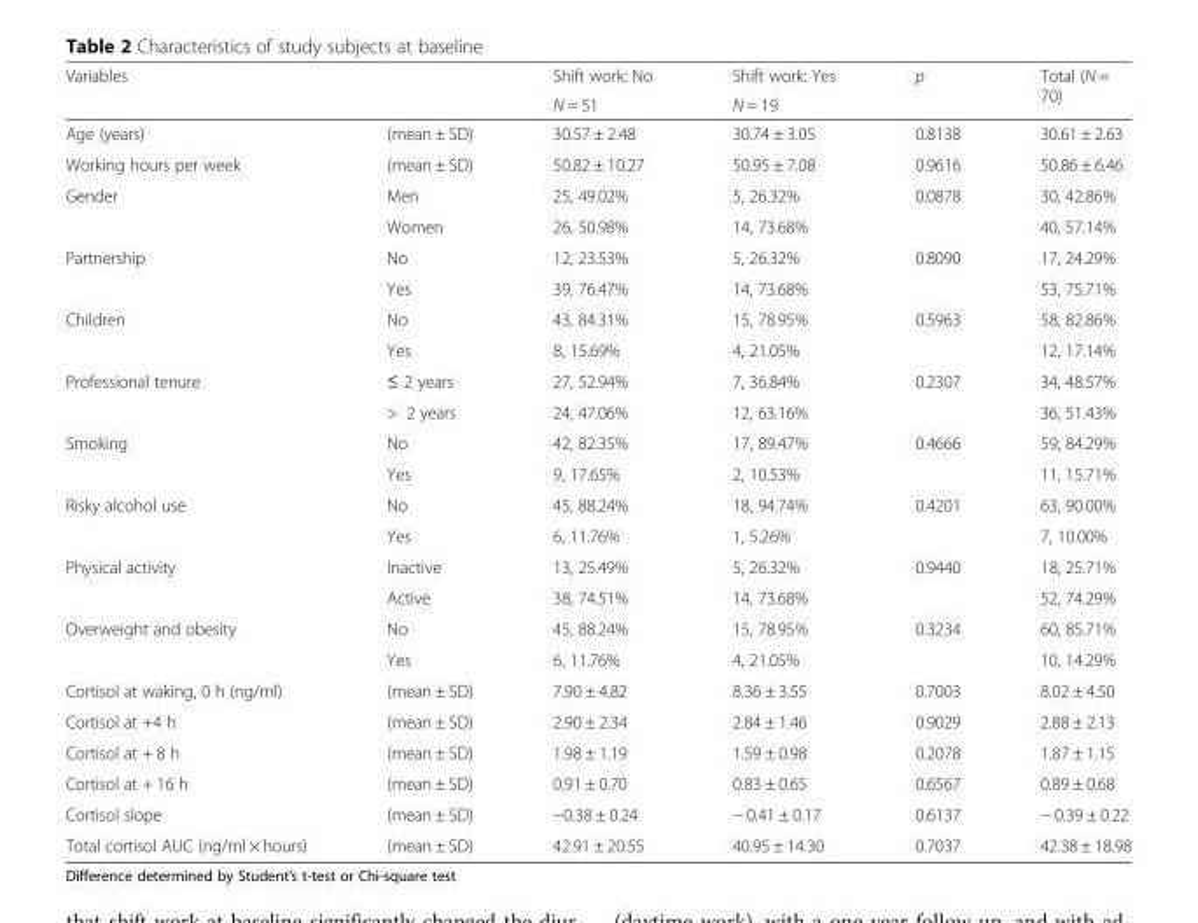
<table><thead><tr><td rowspan="2" colspan="2">Variables</td><td rowspan="3">Shift work: No N = 51 30.57 ± 2.48</td><td rowspan="3">Shift work: Yes N = 19 30.74 ± 3.05</td><td rowspan="3">p 0.8138</td><td rowspan="3">Total (N = 70) 30.61 ± 2.63</td></tr><tr></tr><tr><td>Age (years)</td><td>(mean ± SD)</td></tr></thead><tbody><tr><td>Working hours per week</td><td>(mean ± SD)</td><td>50.82 ± 10.27</td><td>50.95 ± 7.08</td><td>0.9616</td><td>50.86 ± 6.46</td></tr><tr><td rowspan="2">Gender</td><td>Men</td><td>25, 49.02%</td><td>5, 26.32%</td><td>0.0878</td><td>30, 42.86%</td></tr><tr><td>Women</td><td>26, 50.98%</td><td>14, 73.68%</td><td></td><td>40, 57.14%</td></tr><tr><td rowspan="2">Partnership</td><td>No</td><td>12, 23.53%</td><td>5, 26.32%</td><td>0.8090</td><td>17, 24.29%</td></tr><tr><td>Yes</td><td>39, 76.47%</td><td>14, 73.68%</td><td></td><td>53, 75.71%</td></tr><tr><td rowspan="2">Children</td><td>No</td><td>43, 84.31%</td><td>15, 78.95%</td><td>0.5963</td><td>58, 82.86%</td></tr><tr><td>Yes</td><td>8, 15.69%</td><td>4, 21.05%</td><td></td><td>12, 17.14%</td></tr><tr><td rowspan="2">Professional tenure</td><td>≤ 2 years</td><td>27, 52.94%</td><td>7, 36.84%</td><td>0.2307</td><td>34, 48.57%</td></tr><tr><td>&gt; 2 years</td><td>24, 47.06%</td><td>12, 63.16%</td><td></td><td>36, 51.43%</td></tr><tr><td rowspan="2">Smoking</td><td>No</td><td>42, 82.35%</td><td>17, 89.47%</td><td>0.4666</td><td>59, 84.29%</td></tr><tr><td>Yes</td><td>9, 17.65%</td><td>2, 10.53%</td><td></td><td>11, 15.71%</td></tr><tr><td rowspan="2">Risky alcohol use</td><td>No</td><td>45, 88.24%</td><td>18, 94.74%</td><td>0.4201</td><td>63, 90.00%</td></tr><tr><td>Yes</td><td>6, 11.76%</td><td>1, 5.26%</td><td></td><td>7, 10.00%</td></tr><tr><td rowspan="2">Physical activity</td><td>Inactive</td><td>13, 25.49%</td><td>5, 26.32%</td><td>0.9440</td><td>18, 25.71%</td></tr><tr><td>Active</td><td>38, 74.51%</td><td>14, 73.68%</td><td></td><td>52, 74.29%</td></tr><tr><td rowspan="2">Overweight and obesity</td><td>No</td><td>45, 88.24%</td><td>15, 78.95%</td><td>0.3234</td><td>60, 85.71%</td></tr><tr><td>Yes</td><td>6, 11.76%</td><td>4, 21.05%</td><td></td><td>10, 14.29%</td></tr><tr><td>Cortisol at waking, 0 h (ng/ml)</td><td>(mean ± SD)</td><td>7.90 ± 4.82</td><td>8.36 ± 3.55</td><td>0.7003</td><td>8.02 ± 4.50</td></tr><tr><td>Cortisol at +4 h</td><td>(mean ± SD)</td><td>2.90 ± 2.34</td><td>2.84 ± 1.46</td><td>0.9029</td><td>2.88 ± 2.13</td></tr><tr><td>Cortisol at + 8 h</td><td>(mean ± SD)</td><td>1.98 ± 1.19</td><td>1.59 ± 0.98</td><td>0.2078</td><td>1.87 ± 1.15</td></tr><tr><td>Cortisol at + 16 h</td><td>(mean ± SD)</td><td>0.91 ± 0.70</td><td>0.83 ± 0.65</td><td>0.6567</td><td>0.89 ± 0.68</td></tr><tr><td>Cortisol slope</td><td>(mean ± SD)</td><td>−0.38 ± 0.24</td><td>− 0.41 ± 0.17</td><td>0.6137</td><td>− 0.39 ± 0.22</td></tr><tr><td>Total cortisol AUC (ng/ml × hours)</td><td>(mean ± SD)</td><td>42.91 ± 20.55</td><td>40.95 ± 14.30</td><td>0.7037</td><td>42.38 ± 18.98</td></tr></tbody></table>